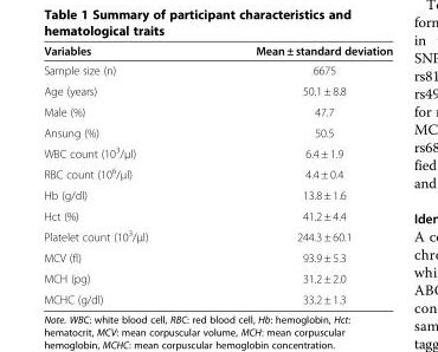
<table><thead><tr><td>Variables</td><td>Mean ± standard deviation</td></tr></thead><tbody><tr><td>Sample size (n)</td><td>6675</td></tr><tr><td>Age (years)</td><td>50.1 ± 8.8</td></tr><tr><td>Male (%)</td><td>47.7</td></tr><tr><td>Ansung (%)</td><td>50.5</td></tr><tr><td>WBC count (10<sup>3</sup>/μl)</td><td>6.4 ± 1.9</td></tr><tr><td>RBC count (10<sup>6</sup>/μl)</td><td>4.4 ± 0.4</td></tr><tr><td>Hb (g/dl)</td><td>13.8 ± 1.6</td></tr><tr><td>Hct (%)</td><td>41.2 ± 4.4</td></tr><tr><td>Platelet count (10<sup>3</sup>/μl)</td><td>244.3 ± 60.1</td></tr><tr><td>MCV (fl)</td><td>93.9 ± 5.3</td></tr><tr><td>MCH (pg)</td><td>31.2 ± 2.0</td></tr><tr><td>MCHC (g/dl)</td><td>33.2 ± 1.3</td></tr></tbody></table>